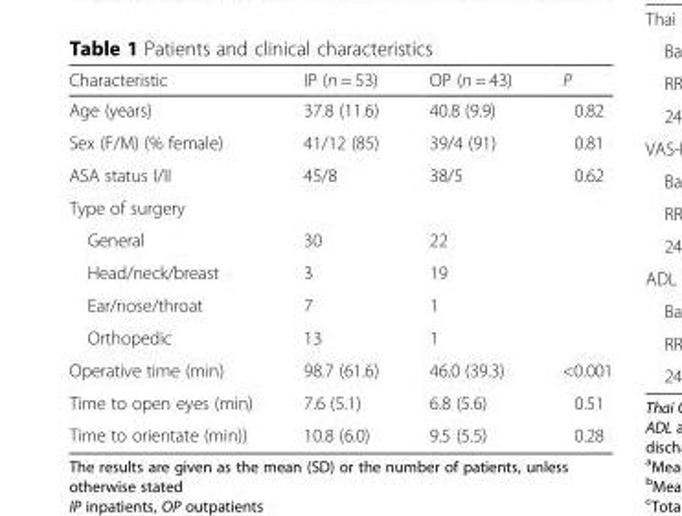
<table><thead><tr><td>Characteristic</td><td>IP (n = 53)</td><td>OP (n = 43)</td><td>P</td></tr></thead><tbody><tr><td>Age (years)</td><td>37.8 (11.6)</td><td>40.8 (9.9)</td><td>0.82</td></tr><tr><td>Sex (F/M) (% female)</td><td>41/12 (85)</td><td>39/4 (91)</td><td>0.81</td></tr><tr><td>ASA status I/II</td><td>45/8</td><td>38/5</td><td>0.62</td></tr><tr><td colspan="4">Type of surgery</td></tr><tr><td>General</td><td>30</td><td>22</td><td rowspan="4"></td></tr><tr><td>Head/neck/breast</td><td>3</td><td>19</td></tr><tr><td>Ear/nose/throat</td><td>7</td><td>1</td></tr><tr><td>Orthopedic</td><td>13</td><td>1</td></tr><tr><td>Operative time (min)</td><td>98.7 (61.6)</td><td>46.0 (39.3)</td><td>&lt;0.001</td></tr><tr><td>Time to open eyes (min)</td><td>7.6 (5.1)</td><td>6.8 (5.6)</td><td>0.51</td></tr><tr><td>Time to orientate (min))</td><td>10.8 (6.0)</td><td>9.5 (5.5)</td><td>0.28</td></tr></tbody></table>